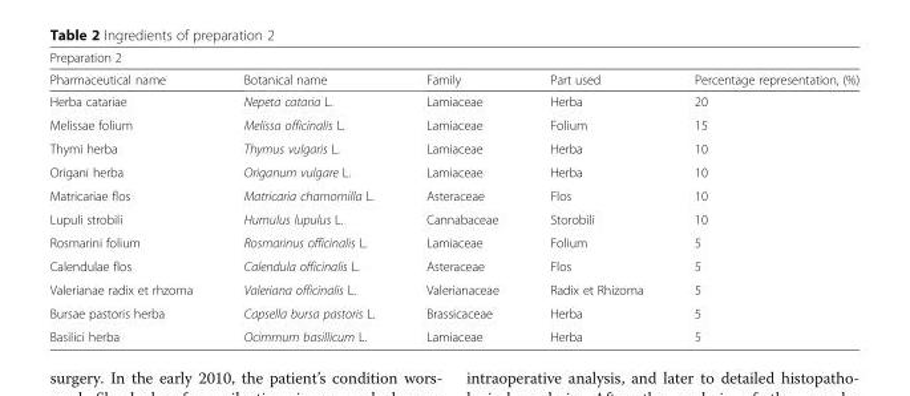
<table><thead><tr><td colspan="5">Preparation 2</td></tr><tr><td>Pharmaceutical name</td><td>Botanical name</td><td>Family</td><td>Part used</td><td>Percentage representation, (%)</td></tr></thead><tbody><tr><td>Herba catariae</td><td>Nepeta cataria L.</td><td>Lamiaceae</td><td>Herba</td><td>20</td></tr><tr><td>Melissae folium</td><td>Melissa officinalis L.</td><td>Lamiaceae</td><td>Folium</td><td>15</td></tr><tr><td>Thymi herba</td><td>Thymus vulgaris L.</td><td>Lamiaceae</td><td>Herba</td><td>10</td></tr><tr><td>Origani herba</td><td>Origanum vulgare L.</td><td>Lamiaceae</td><td>Herba</td><td>10</td></tr><tr><td>Matricariae flos</td><td>Matricaria chamomilla L.</td><td>Asteraceae</td><td>Flos</td><td>10</td></tr><tr><td>Lupuli strobili</td><td>Humulus lupulus L.</td><td>Cannabaceae</td><td>Storobili</td><td>10</td></tr><tr><td>Rosmarini folium</td><td>Rosmarinus officinalis L.</td><td>Lamiaceae</td><td>Folium</td><td>5</td></tr><tr><td>Calendulae flos</td><td>Calendula officinalis L.</td><td>Asteraceae</td><td>Flos</td><td>5</td></tr><tr><td>Valerianae radix et rhzoma</td><td>Valeriana officinalis L.</td><td>Valerianaceae</td><td>Radix et Rhizoma</td><td>5</td></tr><tr><td>Bursae pastoris herba</td><td>Capsella bursa pastoris L.</td><td>Brassicaceae</td><td>Herba</td><td>5</td></tr><tr><td>Basilici herba</td><td>Ocimmum basillicum L.</td><td>Lamiaceae</td><td>Herba</td><td>5</td></tr></tbody></table>